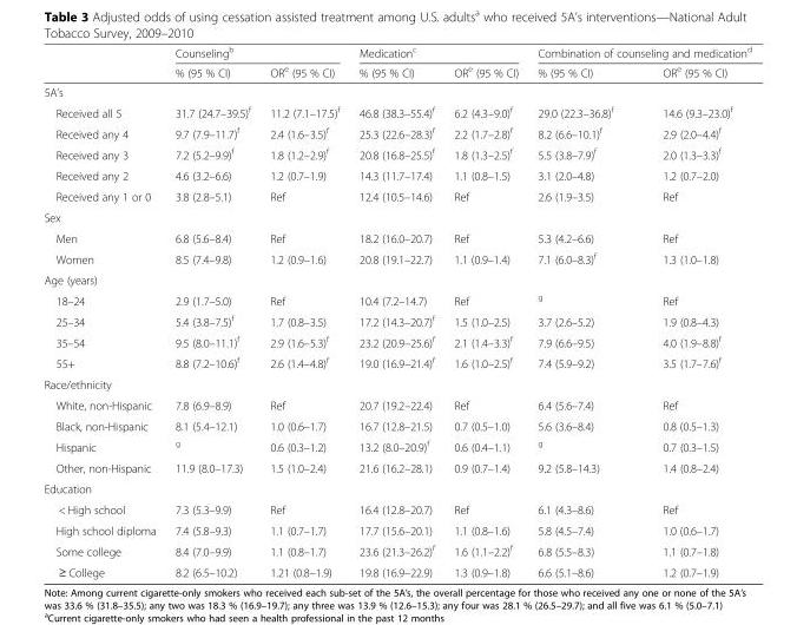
<table><thead><tr><td rowspan="2"></td><td colspan="2">Counseling<sup>b</sup></td><td colspan="2">Medication<sup>c</sup></td><td colspan="2">Combination of counseling and medication<sup>d</sup></td></tr><tr><td>% (95 % CI)</td><td>OR<sup>e</sup> (95 % CI)</td><td>% (95 % CI)</td><td>OR<sup>e</sup> (95 % CI)</td><td>% (95 % CI)</td><td>OR<sup>e</sup> (95 % CI)</td></tr></thead><tbody><tr><td colspan="7">5A’s</td></tr><tr><td>Received all 5</td><td>31.7 (24.7–39.5)<sup>f</sup></td><td>11.2 (7.1–17.5)<sup>f</sup></td><td>46.8 (38.3–55.4)<sup>f</sup></td><td>6.2 (4.3–9.0)<sup>f</sup></td><td>29.0 (22.3–36.8)<sup>f</sup></td><td>14.6 (9.3–23.0)<sup>f</sup></td></tr><tr><td>Received any 4</td><td>9.7 (7.9–11.7)<sup>f</sup></td><td>2.4 (1.6–3.5)<sup>f</sup></td><td>25.3 (22.6–28.3)<sup>f</sup></td><td>2.2 (1.7–2.8)<sup>f</sup></td><td>8.2 (6.6–10.1)<sup>f</sup></td><td>2.9 (2.0–4.4)<sup>f</sup></td></tr><tr><td>Received any 3</td><td>7.2 (5.2–9.9)<sup>f</sup></td><td>1.8 (1.2–2.9)<sup>f</sup></td><td>20.8 (16.8–25.5)<sup>f</sup></td><td>1.8 (1.3–2.5)<sup>f</sup></td><td>5.5 (3.8–7.9)<sup>f</sup></td><td>2.0 (1.3–3.3)<sup>f</sup></td></tr><tr><td>Received any 2</td><td>4.6 (3.2–6.6)</td><td>1.2 (0.7–1.9)</td><td>14.3 (11.7–17.4)</td><td>1.1 (0.8–1.5)</td><td>3.1 (2.0–4.8)</td><td>1.2 (0.7–2.0)</td></tr><tr><td>Received any 1 or 0</td><td>3.8 (2.8–5.1)</td><td>Ref</td><td>12.4 (10.5–14.6)</td><td>Ref</td><td>2.6 (1.9–3.5)</td><td>Ref</td></tr><tr><td colspan="7">Sex</td></tr><tr><td>Men</td><td>6.8 (5.6–8.4)</td><td>Ref</td><td>18.2 (16.0–20.7)</td><td>Ref</td><td>5.3 (4.2–6.6)</td><td>Ref</td></tr><tr><td>Women</td><td>8.5 (7.4–9.8)</td><td>1.2 (0.9–1.6)</td><td>20.8 (19.1–22.7)</td><td>1.1 (0.9–1.4)</td><td>7.1 (6.0–8.3)<sup>f</sup></td><td>1.3 (1.0–1.8)</td></tr><tr><td colspan="7">Age (years)</td></tr><tr><td>18–24</td><td>2.9 (1.7–5.0)</td><td>Ref</td><td>10.4 (7.2–14.7)</td><td>Ref</td><td><sup>g</sup></td><td>Ref</td></tr><tr><td>25–34</td><td>5.4 (3.8–7.5)<sup>f</sup></td><td>1.7 (0.8–3.5)</td><td>17.2 (14.3–20.7)<sup>f</sup></td><td>1.5 (1.0–2.5)</td><td>3.7 (2.6–5.2)</td><td>1.9 (0.8–4.3)</td></tr><tr><td>35–54</td><td>9.5 (8.0–11.1)<sup>f</sup></td><td>2.9 (1.6–5.3)<sup>f</sup></td><td>23.2 (20.9–25.6)<sup>f</sup></td><td>2.1 (1.4–3.3)<sup>f</sup></td><td>7.9 (6.6–9.5)</td><td>4.0 (1.9–8.8)<sup>f</sup></td></tr><tr><td>55+</td><td>8.8 (7.2–10.6)<sup>f</sup></td><td>2.6 (1.4–4.8)<sup>f</sup></td><td>19.0 (16.9–21.4)<sup>f</sup></td><td>1.6 (1.0–2.5)<sup>f</sup></td><td>7.4 (5.9–9.2)</td><td>3.5 (1.7–7.6)<sup>f</sup></td></tr><tr><td colspan="7">Race/ethnicity</td></tr><tr><td>White, non-Hispanic</td><td>7.8 (6.9–8.9)</td><td>Ref</td><td>20.7 (19.2–22.4)</td><td>Ref</td><td>6.4 (5.6–7.4)</td><td>Ref</td></tr><tr><td>Black, non-Hispanic</td><td>8.1 (5.4–12.1)</td><td>1.0 (0.6–1.7)</td><td>16.7 (12.8–21.5)</td><td>0.7 (0.5–1.0)</td><td>5.6 (3.6–8.4)</td><td>0.8 (0.5–1.3)</td></tr><tr><td>Hispanic</td><td><sup>g</sup></td><td>0.6 (0.3–1.2)</td><td>13.2 (8.0–20.9)<sup>f</sup></td><td>0.6 (0.4–1.1)</td><td><sup>g</sup></td><td>0.7 (0.3–1.5)</td></tr><tr><td>Other, non-Hispanic</td><td>11.9 (8.0–17.3)</td><td>1.5 (1.0–2.4)</td><td>21.6 (16.2–28.1)</td><td>0.9 (0.7–1.4)</td><td>9.2 (5.8–14.3)</td><td>1.4 (0.8–2.4)</td></tr><tr><td colspan="7">Education</td></tr><tr><td>&lt; High school</td><td>7.3 (5.3–9.9)</td><td>Ref</td><td>16.4 (12.8–20.7)</td><td>Ref</td><td>6.1 (4.3–8.6)</td><td>Ref</td></tr><tr><td>High school diploma</td><td>7.4 (5.8–9.3)</td><td>1.1 (0.7–1.7)</td><td>17.7 (15.6–20.1)</td><td>1.1 (0.8–1.6)</td><td>5.8 (4.5–7.4)</td><td>1.0 (0.6–1.7)</td></tr><tr><td>Some college</td><td>8.4 (7.0–9.9)</td><td>1.1 (0.8–1.7)</td><td>23.6 (21.3–26.2)<sup>f</sup></td><td>1.6 (1.1–2.2)<sup>f</sup></td><td>6.8 (5.5–8.3)</td><td>1.1 (0.7–1.8)</td></tr><tr><td>≥ College</td><td>8.2 (6.5–10.2)</td><td>1.21 (0.8–1.9)</td><td>19.8 (16.9–22.9)</td><td>1.3 (0.9–1.8)</td><td>6.6 (5.1–8.6)</td><td>1.2 (0.7–1.9)</td></tr></tbody></table>